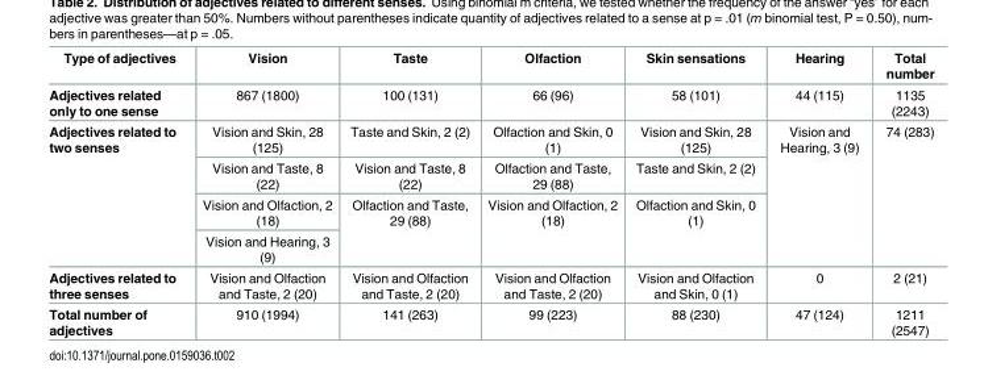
<table><thead><tr><td>Type of adjectives</td><td>Vision</td><td>Taste</td><td>Olfaction</td><td>Skin sensations</td><td>Hearing</td><td>Total number</td></tr></thead><tbody><tr><td>Adjectives related only to one sense</td><td>867 (1800)</td><td>100 (131)</td><td>66 (96)</td><td>58 (101)</td><td>44 (115)</td><td>1135 (2243)</td></tr><tr><td rowspan="4">Adjectives related to two senses</td><td>Vision and Skin, 28 (125)</td><td>Taste and Skin, 2 (2)</td><td>Olfaction and Skin, 0 (1)</td><td>Vision and Skin, 28 (125)</td><td rowspan="4">Vision and Hearing, 3 (9)</td><td rowspan="4">74 (283)</td></tr><tr><td>Vision and Taste, 8 (22)</td><td>Vision and Taste, 8 (22)</td><td>Olfaction and Taste, 29 (88)</td><td>Taste and Skin, 2 (2)</td></tr><tr><td>Vision and Olfaction, 2 (18)</td><td rowspan="2">Olfaction and Taste, 29 (88)</td><td rowspan="2">Vision and Olfaction, 2 (18)</td><td rowspan="2">Olfaction and Skin, 0 (1)</td></tr><tr><td>Vision and Hearing, 3 (9)</td></tr><tr><td>Adjectives related to three senses</td><td>Vision and Olfaction and Taste, 2 (20)</td><td>Vision and Olfaction and Taste, 2 (20)</td><td>Vision and Olfaction and Taste, 2 (20)</td><td>Vision and Olfaction and Skin, 0 (1)</td><td>0</td><td>2 (21)</td></tr><tr><td>Total number of adjectives</td><td>910 (1994)</td><td>141 (263)</td><td>99 (223)</td><td>88 (230)</td><td>47 (124)</td><td>1211 (2547)</td></tr></tbody></table>